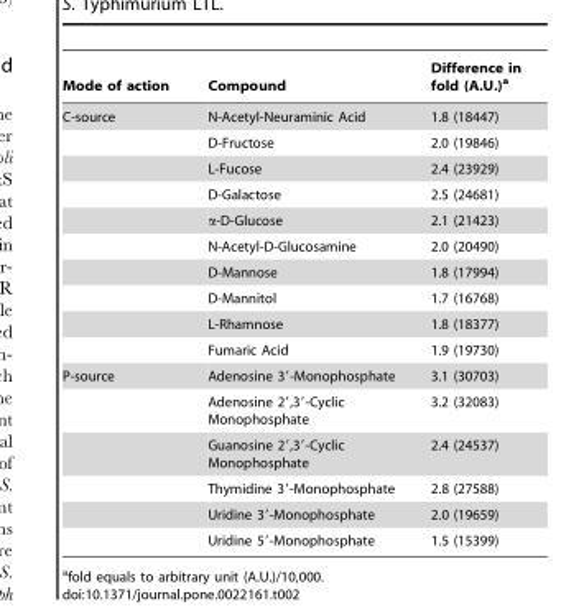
<table><thead><tr><td>Mode of action</td><td>Compound</td><td>Difference in fold (A.U.)<sup>a</sup></td></tr></thead><tbody><tr><td rowspan="10">C-source</td><td>N-Acetyl-Neuraminic Acid</td><td>1.8 (18447)</td></tr><tr><td>D-Fructose</td><td>2.0 (19846)</td></tr><tr><td>L-Fucose</td><td>2.4 (23929)</td></tr><tr><td>D-Galactose</td><td>2.5 (24681)</td></tr><tr><td>α-D-Glucose</td><td>2.1 (21423)</td></tr><tr><td>N-Acetyl-D-Glucosamine</td><td>2.0 (20490)</td></tr><tr><td>D-Mannose</td><td>1.8 (17994)</td></tr><tr><td>D-Mannitol</td><td>1.7 (16768)</td></tr><tr><td>L-Rhamnose</td><td>1.8 (18377)</td></tr><tr><td>Fumaric Acid</td><td>1.9 (19730)</td></tr><tr><td rowspan="6">P-source</td><td>Adenosine 3′-Monophosphate</td><td>3.1 (30703)</td></tr><tr><td>Adenosine 2′,3′-Cyclic Monophosphate</td><td>3.2 (32083)</td></tr><tr><td>Guanosine 2′,3′-Cyclic Monophosphate</td><td>2.4 (24537)</td></tr><tr><td>Thymidine 3′-Monophosphate</td><td>2.8 (27588)</td></tr><tr><td>Uridine 3′-Monophosphate</td><td>2.0 (19659)</td></tr><tr><td>Uridine 5′-Monophosphate</td><td>1.5 (15399)</td></tr></tbody></table>